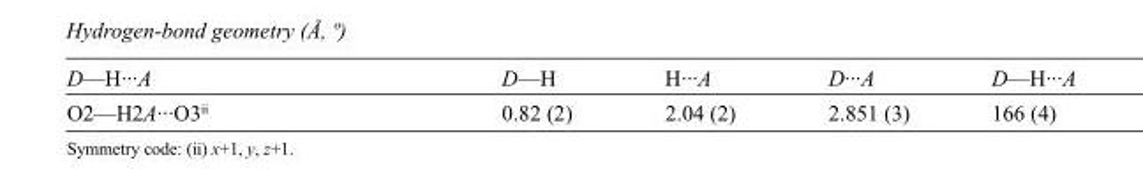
<table><tbody><tr><td>D—H···A</td><td>D—H</td><td>H···A</td><td>D···A</td><td>D—H···A</td></tr><tr><td>O2—H2A···O3<sup>ii</sup></td><td>0.82 (2)</td><td>2.04 (2)</td><td>2.851 (3)</td><td>166 (4)</td></tr></tbody></table>